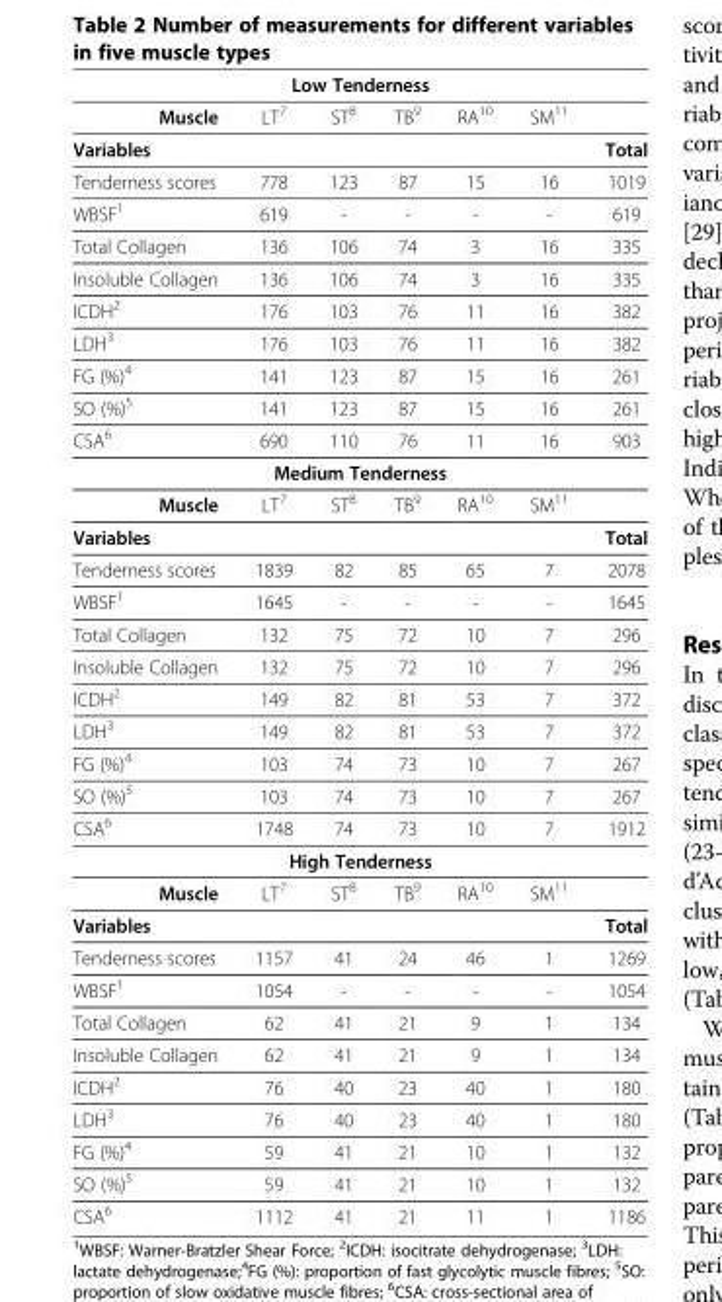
<table><tbody><tr><td colspan="7">Low Tenderness</td></tr><tr><td>Muscle</td><td>LT<sup>7</sup></td><td>ST<sup>8</sup></td><td>TB<sup>9</sup></td><td>RA<sup>10</sup></td><td>SM<sup>11</sup></td><td></td></tr><tr><td>Variables</td><td></td><td></td><td></td><td></td><td></td><td>Total</td></tr><tr><td>Tenderness scores</td><td>778</td><td>123</td><td>87</td><td>15</td><td>16</td><td>1019</td></tr><tr><td>WBSF<sup>1</sup></td><td>619</td><td>-</td><td>-</td><td>-</td><td>-</td><td>619</td></tr><tr><td>Total Collagen</td><td>136</td><td>106</td><td>74</td><td>3</td><td>16</td><td>335</td></tr><tr><td>Insoluble Collagen</td><td>136</td><td>106</td><td>74</td><td>3</td><td>16</td><td>335</td></tr><tr><td>ICDH<sup>2</sup></td><td>176</td><td>103</td><td>76</td><td>11</td><td>16</td><td>382</td></tr><tr><td>LDH<sup>3</sup></td><td>176</td><td>103</td><td>76</td><td>11</td><td>16</td><td>382</td></tr><tr><td>FG (%)<sup>4</sup></td><td>141</td><td>123</td><td>87</td><td>15</td><td>16</td><td>261</td></tr><tr><td>SO (%)<sup>5</sup></td><td>141</td><td>123</td><td>87</td><td>15</td><td>16</td><td>261</td></tr><tr><td>CSA<sup>6</sup></td><td>690</td><td>110</td><td>76</td><td>11</td><td>16</td><td>903</td></tr><tr><td colspan="7">Medium Tenderness</td></tr><tr><td>Muscle</td><td>LT<sup>7</sup></td><td>ST<sup>8</sup></td><td>TB<sup>9</sup></td><td>RA<sup>10</sup></td><td>SM<sup>11</sup></td><td></td></tr><tr><td>Variables</td><td></td><td></td><td></td><td></td><td></td><td>Total</td></tr><tr><td>Tenderness scores</td><td>1839</td><td>82</td><td>85</td><td>65</td><td>7</td><td>2078</td></tr><tr><td>WBSF<sup>1</sup></td><td>1645</td><td>-</td><td>-</td><td>-</td><td>-</td><td>1645</td></tr><tr><td>Total Collagen</td><td>132</td><td>75</td><td>72</td><td>10</td><td>7</td><td>296</td></tr><tr><td>Insoluble Collagen</td><td>132</td><td>75</td><td>72</td><td>10</td><td>7</td><td>296</td></tr><tr><td>ICDH<sup>2</sup></td><td>149</td><td>82</td><td>81</td><td>53</td><td>7</td><td>372</td></tr><tr><td>LDH<sup>3</sup></td><td>149</td><td>82</td><td>81</td><td>53</td><td>7</td><td>372</td></tr><tr><td>FG (%)<sup>4</sup></td><td>103</td><td>74</td><td>73</td><td>10</td><td>7</td><td>267</td></tr><tr><td>SO (%)<sup>5</sup></td><td>103</td><td>74</td><td>73</td><td>10</td><td>7</td><td>267</td></tr><tr><td>CSA<sup>6</sup></td><td>1748</td><td>74</td><td>73</td><td>10</td><td>7</td><td>1912</td></tr><tr><td colspan="7">High Tenderness</td></tr><tr><td>Muscle</td><td>LT<sup>7</sup></td><td>ST<sup>8</sup></td><td>TB<sup>9</sup></td><td>RA<sup>10</sup></td><td>SM<sup>11</sup></td><td></td></tr><tr><td>Variables</td><td></td><td></td><td></td><td></td><td></td><td>Total</td></tr><tr><td>Tenderness scores</td><td>1157</td><td>41</td><td>24</td><td>46</td><td>1</td><td>1269</td></tr><tr><td>WBSF<sup>1</sup></td><td>1054</td><td>-</td><td>-</td><td>-</td><td>-</td><td>1054</td></tr><tr><td>Total Collagen</td><td>62</td><td>41</td><td>21</td><td>9</td><td>1</td><td>134</td></tr><tr><td>Insoluble Collagen</td><td>62</td><td>41</td><td>21</td><td>9</td><td>1</td><td>134</td></tr><tr><td>ICDH<sup>2</sup></td><td>76</td><td>40</td><td>23</td><td>40</td><td>1</td><td>180</td></tr><tr><td>LDH<sup>3</sup></td><td>76</td><td>40</td><td>23</td><td>40</td><td>1</td><td>180</td></tr><tr><td>FG (%)<sup>4</sup></td><td>59</td><td>41</td><td>21</td><td>10</td><td>1</td><td>132</td></tr><tr><td>SO (%)<sup>5</sup></td><td>59</td><td>41</td><td>21</td><td>10</td><td>1</td><td>132</td></tr><tr><td>CSA<sup>6</sup></td><td>1112</td><td>41</td><td>21</td><td>11</td><td>1</td><td>1186</td></tr></tbody></table>